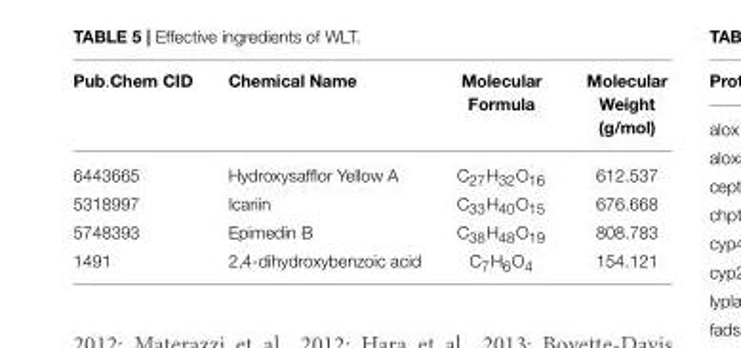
<table><thead><tr><td>Pub.Chem CID</td><td>Chemical Name</td><td>Molecular Formula</td><td>Molecular Weight (g/mol)</td></tr></thead><tbody><tr><td>6443665</td><td>Hydroxysafflor Yellow A</td><td>C<sub>27</sub>H<sub>32</sub>O<sub>16</sub></td><td>612.537</td></tr><tr><td>5318997</td><td>Icariin</td><td>C<sub>33</sub>H<sub>40</sub>O<sub>15</sub></td><td>676.668</td></tr><tr><td>5748393</td><td>Epimedin B</td><td>C<sub>38</sub>H<sub>48</sub>O<sub>19</sub></td><td>808.783</td></tr><tr><td>1491</td><td>2,4-dihydroxybenzoic acid</td><td>C<sub>7</sub>H<sub>6</sub>O<sub>4</sub></td><td>154.121</td></tr></tbody></table>